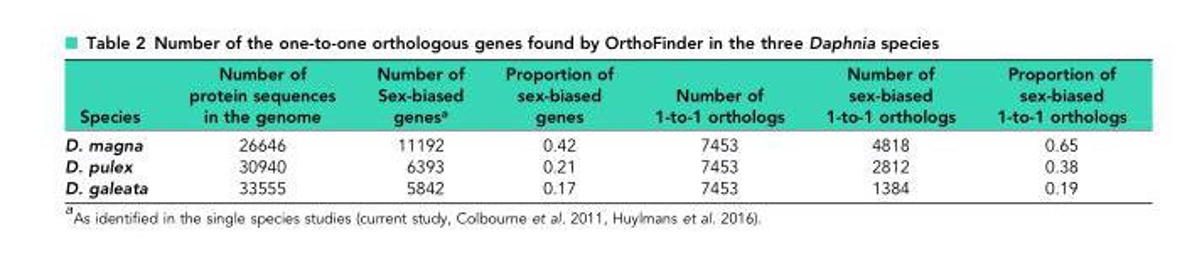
<table><thead><tr><td>Species</td><td>Number of protein sequences in the genome</td><td>Number of Sex-biased genes<sup>a</sup></td><td>Proportion of sex-biased genes</td><td>Number of 1-to-1 orthologs</td><td>Number of sex-biased 1-to-1 orthologs</td><td>Proportion of sex-biased 1-to-1 orthologs</td></tr></thead><tbody><tr><td>D. magna</td><td>26646</td><td>11192</td><td>0.42</td><td>7453</td><td>4818</td><td>0.65</td></tr><tr><td>D. pulex</td><td>30940</td><td>6393</td><td>0.21</td><td>7453</td><td>2812</td><td>0.38</td></tr><tr><td>D. galeata</td><td>33555</td><td>5842</td><td>0.17</td><td>7453</td><td>1384</td><td>0.19</td></tr></tbody></table>